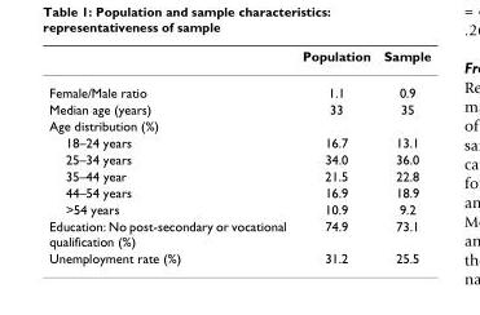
<table><thead><tr><td></td><td>Population</td><td>Sample</td></tr></thead><tbody><tr><td>Female/Male ratio</td><td>1.1</td><td>0.9</td></tr><tr><td>Median age (years)</td><td>33</td><td>35</td></tr><tr><td colspan="3">Age distribution (%)</td></tr><tr><td>18–24 years</td><td>16.7</td><td>13.1</td></tr><tr><td>25–34 years</td><td>34.0</td><td>36.0</td></tr><tr><td>35–44 year</td><td>21.5</td><td>22.8</td></tr><tr><td>44–54 years</td><td>16.9</td><td>18.9</td></tr><tr><td>&gt;54 years</td><td>10.9</td><td>9.2</td></tr><tr><td>Education: No post-secondary or vocational qualification (%)</td><td>74.9</td><td>73.1</td></tr><tr><td>Unemployment rate (%)</td><td>31.2</td><td>25.5</td></tr></tbody></table>